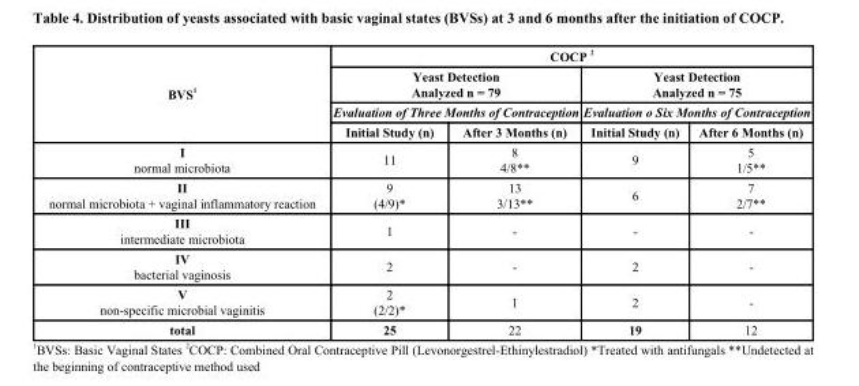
<table><thead><tr><td rowspan="4">BVS <sup>1</sup></td><td colspan="4">COCP <sup>2</sup></td></tr><tr><td rowspan="2" colspan="2">Yeast Detection Analyzed n = 79 Evaluation of Three Months of Contraception</td><td rowspan="2" colspan="2">Yeast Detection Analyzed n = 75 Evaluation o Six Months of Contraception</td></tr><tr></tr><tr><td>Initial Study (n)</td><td>After 3 Months (n)</td><td>Initial Study (n)</td><td>After 6 Months (n)</td></tr></thead><tbody><tr><td>I normal microbiota</td><td>11</td><td>8 4/8**</td><td>9</td><td>5 1/5**</td></tr><tr><td>II normal microbiota + vaginal inflammatory reaction</td><td>9 (4/9)*</td><td>13 3/13**</td><td>6</td><td>7 2/7**</td></tr><tr><td>III intermediate microbiota</td><td>1</td><td>-</td><td>-</td><td>-</td></tr><tr><td>IV bacterial vaginosis</td><td>2</td><td>-</td><td>2</td><td>-</td></tr><tr><td>V non-specific microbial vaginitis</td><td>2 (2/2)*</td><td>1</td><td>2</td><td>-</td></tr><tr><td>total</td><td>25</td><td>22</td><td>19</td><td>12</td></tr></tbody></table>